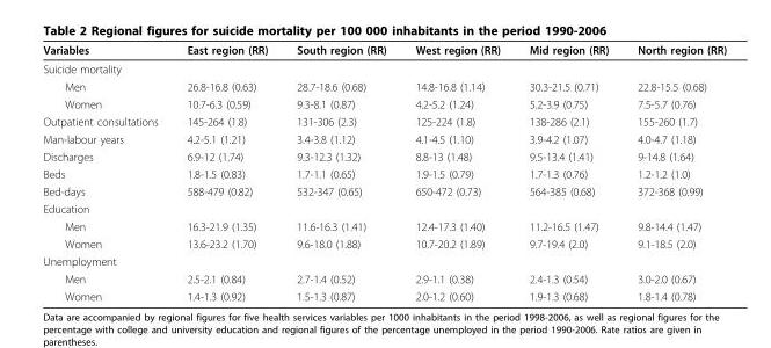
<table><thead><tr><td>Variables</td><td>East region (RR)</td><td>South region (RR)</td><td>West region (RR)</td><td>Mid region (RR)</td><td>North region (RR)</td></tr></thead><tbody><tr><td colspan="6">Suicide mortality</td></tr><tr><td>Men</td><td>26.8-16.8 (0.63)</td><td>28.7-18.6 (0.68)</td><td>14.8-16.8 (1.14)</td><td>30.3-21.5 (0.71)</td><td>22.8-15.5 (0.68)</td></tr><tr><td>Women</td><td>10.7-6.3 (0.59)</td><td>9.3-8.1 (0.87)</td><td>4.2-5.2 (1.24)</td><td>5.2-3.9 (0.75)</td><td>7.5-5.7 (0.76)</td></tr><tr><td>Outpatient consultations</td><td>145-264 (1.8)</td><td>131-306 (2.3)</td><td>125-224 (1.8)</td><td>138-286 (2.1)</td><td>155-260 (1.7)</td></tr><tr><td>Man-labour years</td><td>4.2-5.1 (1.21)</td><td>3.4-3.8 (1.12)</td><td>4.1-4.5 (1.10)</td><td>3.9-4.2 (1.07)</td><td>4.0-4.7 (1.18)</td></tr><tr><td>Discharges</td><td>6.9-12 (1.74)</td><td>9.3-12.3 (1.32)</td><td>8.8-13 (1.48)</td><td>9.5-13.4 (1.41)</td><td>9-14.8 (1.64)</td></tr><tr><td>Beds</td><td>1.8-1.5 (0.83)</td><td>1.7-1.1 (0.65)</td><td>1.9-1.5 (0.79)</td><td>1.7-1.3 (0.76)</td><td>1.2-1.2 (1.0)</td></tr><tr><td>Bed-days</td><td>588-479 (0.82)</td><td>532-347 (0.65)</td><td>650-472 (0.73)</td><td>564-385 (0.68)</td><td>372-368 (0.99)</td></tr><tr><td colspan="6">Education</td></tr><tr><td>Men</td><td>16.3-21.9 (1.35)</td><td>11.6-16.3 (1.41)</td><td>12.4-17.3 (1.40)</td><td>11.2-16.5 (1.47)</td><td>9.8-14.4 (1.47)</td></tr><tr><td>Women</td><td>13.6-23.2 (1.70)</td><td>9.6-18.0 (1.88)</td><td>10.7-20.2 (1.89)</td><td>9.7-19.4 (2.0)</td><td>9.1-18.5 (2.0)</td></tr><tr><td colspan="6">Unemployment</td></tr><tr><td>Men</td><td>2.5-2.1 (0.84)</td><td>2.7-1.4 (0.52)</td><td>2.9-1.1 (0.38)</td><td>2.4-1.3 (0.54)</td><td>3.0-2.0 (0.67)</td></tr><tr><td>Women</td><td>1.4-1.3 (0.92)</td><td>1.5-1.3 (0.87)</td><td>2.0-1.2 (0.60)</td><td>1.9-1.3 (0.68)</td><td>1.8-1.4 (0.78)</td></tr></tbody></table>